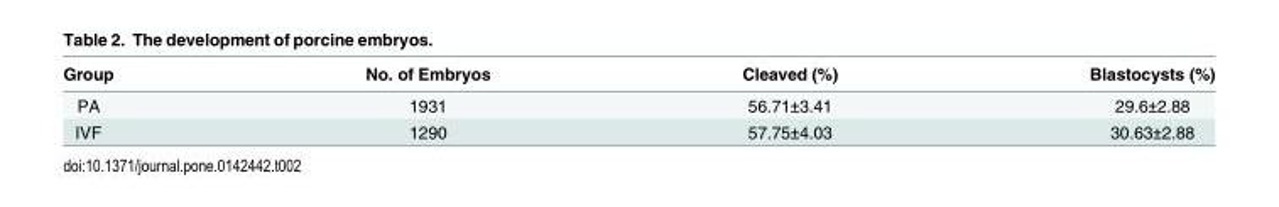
<table><thead><tr><td>Group</td><td>No. of Embryos</td><td>Cleaved (%)</td><td>Blastocysts (%)</td></tr></thead><tbody><tr><td>PA</td><td>1931</td><td>56.71±3.41</td><td>29.6±2.88</td></tr><tr><td>IVF</td><td>1290</td><td>57.75±4.03</td><td>30.63±2.88</td></tr></tbody></table>